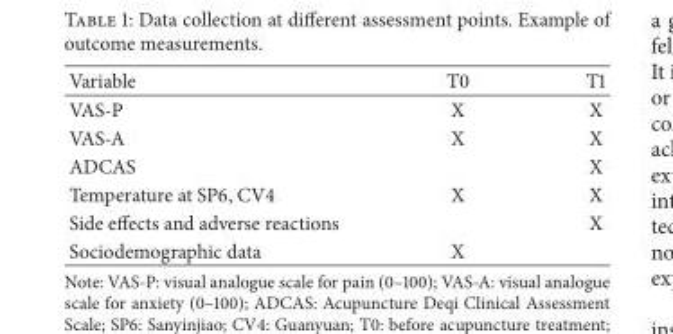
<table><thead><tr><td>Variable</td><td>T0</td><td>T1</td></tr></thead><tbody><tr><td>VAS-P</td><td>X</td><td>X</td></tr><tr><td>VAS-A</td><td>X</td><td>X</td></tr><tr><td>ADCAS</td><td></td><td>X</td></tr><tr><td>Temperature at SP6, CV4</td><td>X</td><td>X</td></tr><tr><td>Side effects and adverse reactions</td><td></td><td>X</td></tr><tr><td>Sociodemographic data</td><td>X</td><td></td></tr></tbody></table>